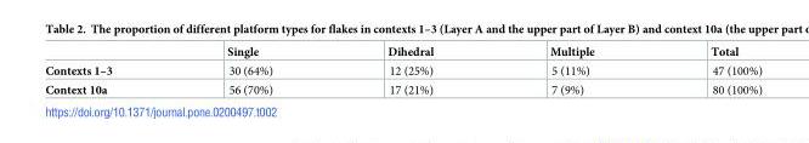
<table><thead><tr><td></td><td>Single</td><td>Dihedral</td><td>Multiple</td><td>Total</td></tr></thead><tbody><tr><td>Contexts 1–3</td><td>30 (64%)</td><td>12 (25%)</td><td>5 (11%)</td><td>47 (100%)</td></tr><tr><td>Context 10a</td><td>56 (70%)</td><td>17 (21%)</td><td>7 (9%)</td><td>80 (100%)</td></tr></tbody></table>